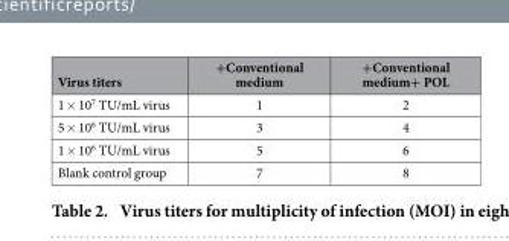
<table><thead><tr><td>Virus titers</td><td>+Conventional medium</td><td>+Conventional medium+ POL</td></tr></thead><tbody><tr><td>1 × 10<sup>7</sup> TU/mL virus</td><td>1</td><td>2</td></tr><tr><td>5 × 10<sup>6</sup> TU/mL virus</td><td>3</td><td>4</td></tr><tr><td>1 × 10<sup>6</sup> TU/mL virus</td><td>5</td><td>6</td></tr><tr><td>Blank control group</td><td>7</td><td>8</td></tr></tbody></table>